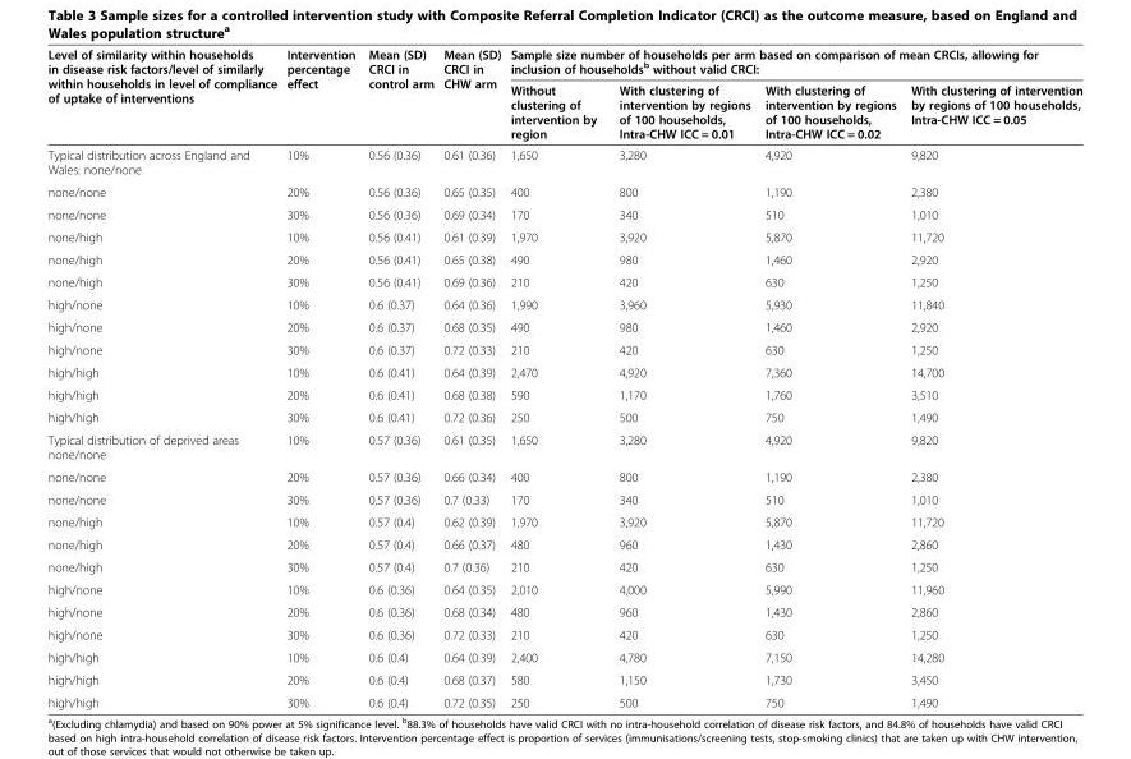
<table><thead><tr><td rowspan="2">Level of similarity within households in disease risk factors/level of similarly within households in level of compliance of uptake of interventions</td><td rowspan="2">Intervention percentage effect</td><td rowspan="2">Mean (SD) CRCI in control arm</td><td rowspan="2">Mean (SD) CRCI in CHW arm</td><td colspan="4">Sample size number of households per arm based on comparison of mean CRCIs, allowing for inclusion of households<sup>b</sup> without valid CRCI:</td></tr><tr><td>Without clustering of intervention by region</td><td>With clustering of intervention by regions of 100 households, Intra-CHW ICC = 0.01</td><td>With clustering of intervention by regions of 100 households, Intra-CHW ICC = 0.02</td><td>With clustering of intervention by regions of 100 households, Intra-CHW ICC = 0.05</td></tr></thead><tbody><tr><td>Typical distribution across England and Wales: none/none</td><td>10%</td><td>0.56 (0.36)</td><td>0.61 (0.36)</td><td>1,650</td><td>3,280</td><td>4,920</td><td>9,820</td></tr><tr><td>none/none</td><td>20%</td><td>0.56 (0.36)</td><td>0.65 (0.35)</td><td>400</td><td>800</td><td>1,190</td><td>2,380</td></tr><tr><td>none/none</td><td>30%</td><td>0.56 (0.36)</td><td>0.69 (0.34)</td><td>170</td><td>340</td><td>510</td><td>1,010</td></tr><tr><td>none/high</td><td>10%</td><td>0.56 (0.41)</td><td>0.61 (0.39)</td><td>1,970</td><td>3,920</td><td>5,870</td><td>11,720</td></tr><tr><td>none/high</td><td>20%</td><td>0.56 (0.41)</td><td>0.65 (0.38)</td><td>490</td><td>980</td><td>1,460</td><td>2,920</td></tr><tr><td>none/high</td><td>30%</td><td>0.56 (0.41)</td><td>0.69 (0.36)</td><td>210</td><td>420</td><td>630</td><td>1,250</td></tr><tr><td>high/none</td><td>10%</td><td>0.6 (0.37)</td><td>0.64 (0.36)</td><td>1,990</td><td>3,960</td><td>5,930</td><td>11,840</td></tr><tr><td>high/none</td><td>20%</td><td>0.6 (0.37)</td><td>0.68 (0.35)</td><td>490</td><td>980</td><td>1,460</td><td>2,920</td></tr><tr><td>high/none</td><td>30%</td><td>0.6 (0.37)</td><td>0.72 (0.33)</td><td>210</td><td>420</td><td>630</td><td>1,250</td></tr><tr><td>high/high</td><td>10%</td><td>0.6 (0.41)</td><td>0.64 (0.39)</td><td>2,470</td><td>4,920</td><td>7,360</td><td>14,700</td></tr><tr><td>high/high</td><td>20%</td><td>0.6 (0.41)</td><td>0.68 (0.38)</td><td>590</td><td>1,170</td><td>1,760</td><td>3,510</td></tr><tr><td>high/high</td><td>30%</td><td>0.6 (0.41)</td><td>0.72 (0.36)</td><td>250</td><td>500</td><td>750</td><td>1,490</td></tr><tr><td>Typical distribution of deprived areas none/none</td><td>10%</td><td>0.57 (0.36)</td><td>0.61 (0.35)</td><td>1,650</td><td>3,280</td><td>4,920</td><td>9,820</td></tr><tr><td>none/none</td><td>20%</td><td>0.57 (0.36)</td><td>0.66 (0.34)</td><td>400</td><td>800</td><td>1,190</td><td>2,380</td></tr><tr><td>none/none</td><td>30%</td><td>0.57 (0.36)</td><td>0.7 (0.33)</td><td>170</td><td>340</td><td>510</td><td>1,010</td></tr><tr><td>none/high</td><td>10%</td><td>0.57 (0.4)</td><td>0.62 (0.39)</td><td>1,970</td><td>3,920</td><td>5,870</td><td>11,720</td></tr><tr><td>none/high</td><td>20%</td><td>0.57 (0.4)</td><td>0.66 (0.37)</td><td>480</td><td>960</td><td>1,430</td><td>2,860</td></tr><tr><td>none/high</td><td>30%</td><td>0.57 (0.4)</td><td>0.7 (0.36)</td><td>210</td><td>420</td><td>630</td><td>1,250</td></tr><tr><td>high/none</td><td>10%</td><td>0.6 (0.36)</td><td>0.64 (0.35)</td><td>2,010</td><td>4,000</td><td>5,990</td><td>11,960</td></tr><tr><td>high/none</td><td>20%</td><td>0.6 (0.36)</td><td>0.68 (0.34)</td><td>480</td><td>960</td><td>1,430</td><td>2,860</td></tr><tr><td>high/none</td><td>30%</td><td>0.6 (0.36)</td><td>0.72 (0.33)</td><td>210</td><td>420</td><td>630</td><td>1,250</td></tr><tr><td>high/high</td><td>10%</td><td>0.6 (0.4)</td><td>0.64 (0.39)</td><td>2,400</td><td>4,780</td><td>7,150</td><td>14,280</td></tr><tr><td>high/high</td><td>20%</td><td>0.6 (0.4)</td><td>0.68 (0.37)</td><td>580</td><td>1,150</td><td>1,730</td><td>3,450</td></tr><tr><td>high/high</td><td>30%</td><td>0.6 (0.4)</td><td>0.72 (0.35)</td><td>250</td><td>500</td><td>750</td><td>1,490</td></tr></tbody></table>